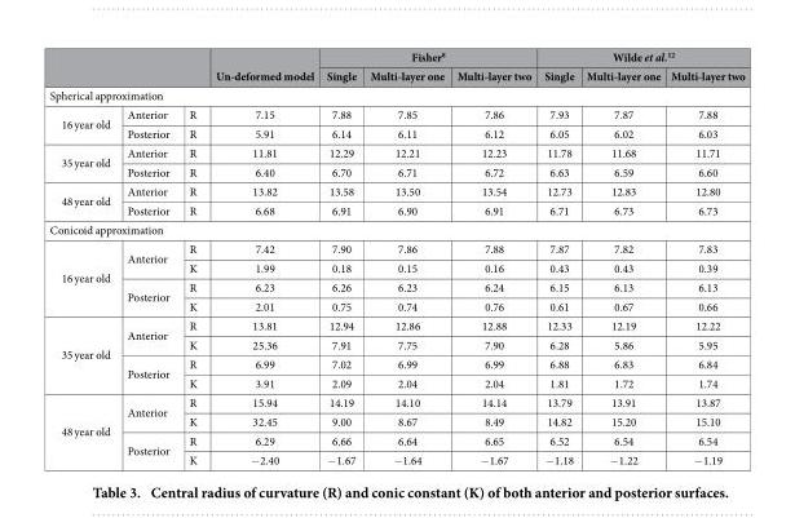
<table><thead><tr><td rowspan="2"></td><td rowspan="2"></td><td rowspan="2"></td><td rowspan="2">Un-deformed model</td><td colspan="3">Fisher<sup>8</sup></td><td colspan="3">Wilde et al.<sup>12</sup></td></tr><tr><td>Single</td><td>Multi-layer one</td><td>Multi-layer two</td><td>Single</td><td>Multi-layer one</td><td>Multi-layer two</td></tr></thead><tbody><tr><td colspan="10">Spherical approximation</td></tr><tr><td rowspan="2">16 year old</td><td>Anterior</td><td>R</td><td>7.15</td><td>7.88</td><td>7.85</td><td>7.86</td><td>7.93</td><td>7.87</td><td>7.88</td></tr><tr><td>Posterior</td><td>R</td><td>5.91</td><td>6.14</td><td>6.11</td><td>6.12</td><td>6.05</td><td>6.02</td><td>6.03</td></tr><tr><td rowspan="2">35 year old</td><td>Anterior</td><td>R</td><td>11.81</td><td>12.29</td><td>12.21</td><td>12.23</td><td>11.78</td><td>11.68</td><td>11.71</td></tr><tr><td>Posterior</td><td>R</td><td>6.40</td><td>6.70</td><td>6.71</td><td>6.72</td><td>6.63</td><td>6.59</td><td>6.60</td></tr><tr><td rowspan="2">48 year old</td><td>Anterior</td><td>R</td><td>13.82</td><td>13.58</td><td>13.50</td><td>13.54</td><td>12.73</td><td>12.83</td><td>12.80</td></tr><tr><td>Posterior</td><td>R</td><td>6.68</td><td>6.91</td><td>6.90</td><td>6.91</td><td>6.71</td><td>6.73</td><td>6.73</td></tr><tr><td colspan="10">Conicoid approximation</td></tr><tr><td rowspan="4">16 year old</td><td rowspan="2">Anterior</td><td>R</td><td>7.42</td><td>7.90</td><td>7.86</td><td>7.88</td><td>7.87</td><td>7.82</td><td>7.83</td></tr><tr><td>K</td><td>1.99</td><td>0.18</td><td>0.15</td><td>0.16</td><td>0.43</td><td>0.43</td><td>0.39</td></tr><tr><td rowspan="2">Posterior</td><td>R</td><td>6.23</td><td>6.26</td><td>6.23</td><td>6.24</td><td>6.15</td><td>6.13</td><td>6.13</td></tr><tr><td>K</td><td>2.01</td><td>0.75</td><td>0.74</td><td>0.76</td><td>0.61</td><td>0.67</td><td>0.66</td></tr><tr><td rowspan="4">35 year old</td><td rowspan="2">Anterior</td><td>R</td><td>13.81</td><td>12.94</td><td>12.86</td><td>12.88</td><td>12.33</td><td>12.19</td><td>12.22</td></tr><tr><td>K</td><td>25.36</td><td>7.91</td><td>7.75</td><td>7.90</td><td>6.28</td><td>5.86</td><td>5.95</td></tr><tr><td rowspan="2">Posterior</td><td>R</td><td>6.99</td><td>7.02</td><td>6.99</td><td>6.99</td><td>6.88</td><td>6.83</td><td>6.84</td></tr><tr><td>K</td><td>3.91</td><td>2.09</td><td>2.04</td><td>2.04</td><td>1.81</td><td>1.72</td><td>1.74</td></tr><tr><td rowspan="4">48 year old</td><td rowspan="2">Anterior</td><td>R</td><td>15.94</td><td>14.19</td><td>14.10</td><td>14.14</td><td>13.79</td><td>13.91</td><td>13.87</td></tr><tr><td>K</td><td>32.45</td><td>9.00</td><td>8.67</td><td>8.49</td><td>14.82</td><td>15.20</td><td>15.10</td></tr><tr><td rowspan="2">Posterior</td><td>R</td><td>6.29</td><td>6.66</td><td>6.64</td><td>6.65</td><td>6.52</td><td>6.54</td><td>6.54</td></tr><tr><td>K</td><td>− 2.40</td><td>− 1.67</td><td>− 1.64</td><td>− 1.67</td><td>− 1.18</td><td>− 1.22</td><td>− 1.19</td></tr></tbody></table>